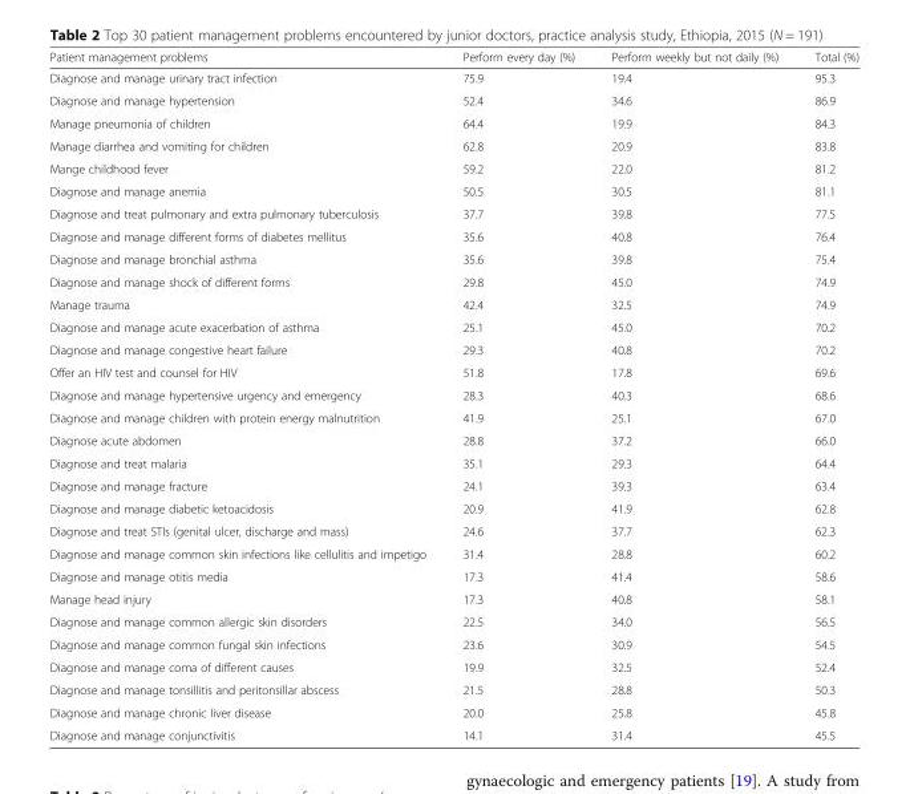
<table><thead><tr><td>Patient management problems</td><td>Perform every day (%)</td><td>Perform weekly but not daily (%)</td><td>Total (%)</td></tr></thead><tbody><tr><td>Diagnose and manage urinary tract infection</td><td>75.9</td><td>19.4</td><td>95.3</td></tr><tr><td>Diagnose and manage hypertension</td><td>52.4</td><td>34.6</td><td>86.9</td></tr><tr><td>Manage pneumonia of children</td><td>64.4</td><td>19.9</td><td>84.3</td></tr><tr><td>Manage diarrhea and vomiting for children</td><td>62.8</td><td>20.9</td><td>83.8</td></tr><tr><td>Mange childhood fever</td><td>59.2</td><td>22.0</td><td>81.2</td></tr><tr><td>Diagnose and manage anemia</td><td>50.5</td><td>30.5</td><td>81.1</td></tr><tr><td>Diagnose and treat pulmonary and extra pulmonary tuberculosis</td><td>37.7</td><td>39.8</td><td>77.5</td></tr><tr><td>Diagnose and manage different forms of diabetes mellitus</td><td>35.6</td><td>40.8</td><td>76.4</td></tr><tr><td>Diagnose and manage bronchial asthma</td><td>35.6</td><td>39.8</td><td>75.4</td></tr><tr><td>Diagnose and manage shock of different forms</td><td>29.8</td><td>45.0</td><td>74.9</td></tr><tr><td>Manage trauma</td><td>42.4</td><td>32.5</td><td>74.9</td></tr><tr><td>Diagnose and manage acute exacerbation of asthma</td><td>25.1</td><td>45.0</td><td>70.2</td></tr><tr><td>Diagnose and manage congestive heart failure</td><td>29.3</td><td>40.8</td><td>70.2</td></tr><tr><td>Offer an HIV test and counsel for HIV</td><td>51.8</td><td>17.8</td><td>69.6</td></tr><tr><td>Diagnose and manage hypertensive urgency and emergency</td><td>28.3</td><td>40.3</td><td>68.6</td></tr><tr><td>Diagnose and manage children with protein energy malnutrition</td><td>41.9</td><td>25.1</td><td>67.0</td></tr><tr><td>Diagnose acute abdomen</td><td>28.8</td><td>37.2</td><td>66.0</td></tr><tr><td>Diagnose and treat malaria</td><td>35.1</td><td>29.3</td><td>64.4</td></tr><tr><td>Diagnose and manage fracture</td><td>24.1</td><td>39.3</td><td>63.4</td></tr><tr><td>Diagnose and manage diabetic ketoacidosis</td><td>20.9</td><td>41.9</td><td>62.8</td></tr><tr><td>Diagnose and treat STIs (genital ulcer, discharge and mass)</td><td>24.6</td><td>37.7</td><td>62.3</td></tr><tr><td>Diagnose and manage common skin infections like cellulitis and impetigo</td><td>31.4</td><td>28.8</td><td>60.2</td></tr><tr><td>Diagnose and manage otitis media</td><td>17.3</td><td>41.4</td><td>58.6</td></tr><tr><td>Manage head injury</td><td>17.3</td><td>40.8</td><td>58.1</td></tr><tr><td>Diagnose and manage common allergic skin disorders</td><td>22.5</td><td>34.0</td><td>56.5</td></tr><tr><td>Diagnose and manage common fungal skin infections</td><td>23.6</td><td>30.9</td><td>54.5</td></tr><tr><td>Diagnose and manage coma of different causes</td><td>19.9</td><td>32.5</td><td>52.4</td></tr><tr><td>Diagnose and manage tonsillitis and peritonsillar abscess</td><td>21.5</td><td>28.8</td><td>50.3</td></tr><tr><td>Diagnose and manage chronic liver disease</td><td>20.0</td><td>25.8</td><td>45.8</td></tr><tr><td>Diagnose and manage conjunctivitis</td><td>14.1</td><td>31.4</td><td>45.5</td></tr></tbody></table>